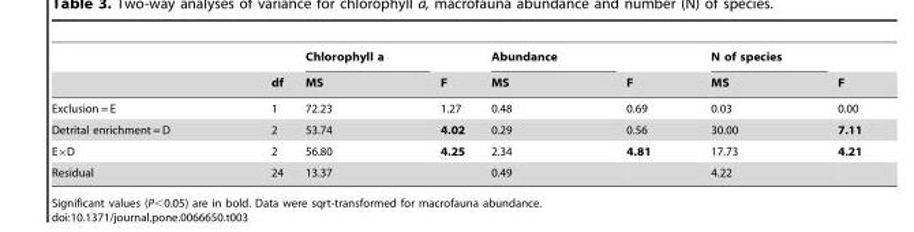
<table><thead><tr><td rowspan="2"></td><td rowspan="2">df</td><td rowspan="2">Chlorophyll a MS</td><td rowspan="2">F</td><td rowspan="2">Abundance MS</td><td rowspan="2">F</td><td rowspan="2">N of species MS</td><td rowspan="2">F</td></tr><tr></tr></thead><tbody><tr><td>Exclusion = E</td><td>1</td><td>72.23</td><td>1.27</td><td>0.48</td><td>0.69</td><td>0.03</td><td>0.00</td></tr><tr><td>Detrital enrichment = D</td><td>2</td><td>53.74</td><td>4.02</td><td>0.29</td><td>0.56</td><td>30.00</td><td>7.11</td></tr><tr><td>E×D</td><td>2</td><td>56.80</td><td>4.25</td><td>2.34</td><td>4.81</td><td>17.73</td><td>4.21</td></tr><tr><td>Residual</td><td>24</td><td>13.37</td><td></td><td>0.49</td><td></td><td>4.22</td><td></td></tr></tbody></table>